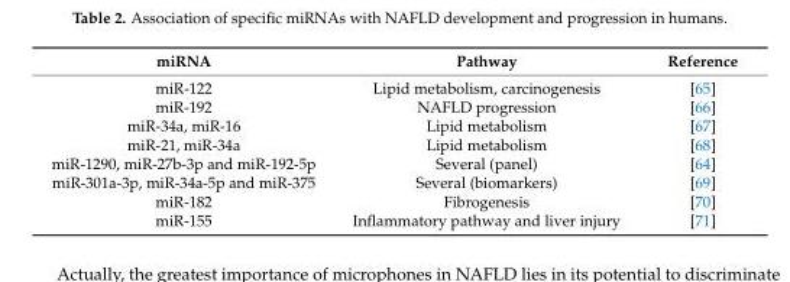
<table><thead><tr><td>miRNA</td><td>Pathway</td><td>Reference</td></tr></thead><tbody><tr><td>miR-122</td><td>Lipid metabolism, carcinogenesis</td><td>[65]</td></tr><tr><td>miR-192</td><td>NAFLD progression</td><td>[66]</td></tr><tr><td>miR-34a, miR-16</td><td>Lipid metabolism</td><td>[67]</td></tr><tr><td>miR-21, miR-34a</td><td>Lipid metabolism</td><td>[68]</td></tr><tr><td>miR-1290, miR-27b-3p and miR-192-5p</td><td>Several (panel)</td><td>[64]</td></tr><tr><td>miR-301a-3p, miR-34a-5p and miR-375</td><td>Several (biomarkers)</td><td>[69]</td></tr><tr><td>miR-182</td><td>Fibrogenesis</td><td>[70]</td></tr><tr><td>miR-155</td><td>Inflammatory pathway and liver injury</td><td>[71]</td></tr></tbody></table>